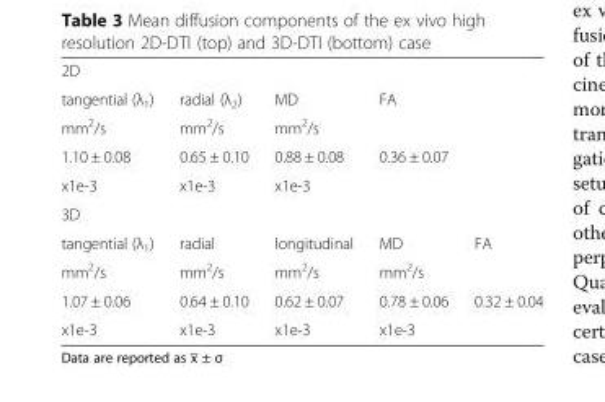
<table><tbody><tr><td colspan="5">2D</td></tr><tr><td>tangential (λ<sub>1</sub>)</td><td>radial (λ<sub>2</sub>)</td><td>MD</td><td rowspan="2">FA</td><td></td></tr><tr><td>mm<sup>2</sup>/s</td><td>mm<sup>2</sup>/s</td><td>mm<sup>2</sup>/s</td><td></td></tr><tr><td>1.10 ± 0.08</td><td>0.65 ± 0.10</td><td>0.88 ± 0.08</td><td>0.36 ± 0.07</td><td></td></tr><tr><td>x1e-3</td><td>x1e-3</td><td>x1e-3</td><td></td><td></td></tr><tr><td colspan="5">3D</td></tr><tr><td>tangential (λ<sub>1</sub>)</td><td>radial</td><td>longitudinal</td><td>MD</td><td rowspan="2">FA</td></tr><tr><td>mm<sup>2</sup>/s</td><td>mm<sup>2</sup>/s</td><td>mm<sup>2</sup>/s</td><td>mm<sup>2</sup>/s</td></tr><tr><td>1.07 ± 0.06</td><td>0.64 ± 0.10</td><td>0.62 ± 0.07</td><td>0.78 ± 0.06</td><td>0.32 ± 0.04</td></tr><tr><td>x1e-3</td><td>x1e-3</td><td>x1e-3</td><td>x1e-3</td><td></td></tr></tbody></table>